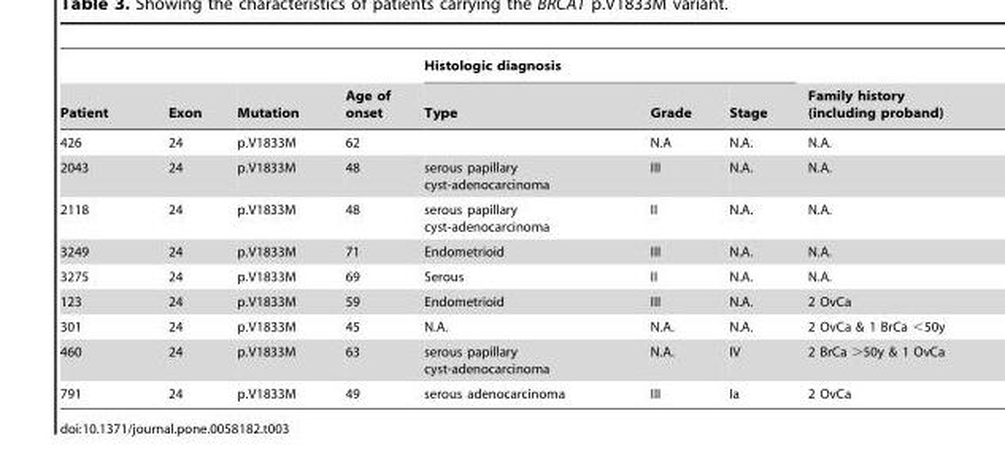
<table><thead><tr><td rowspan="2">Patient</td><td rowspan="2">Exon</td><td rowspan="2">Mutation</td><td rowspan="2">Age of onset</td><td colspan="3">Histologic diagnosis</td><td rowspan="2">Family history (including proband)</td></tr><tr><td>Type</td><td>Grade</td><td>Stage</td></tr></thead><tbody><tr><td>426</td><td>24</td><td>p.V1833M</td><td>62</td><td></td><td>N.A</td><td>N.A.</td><td>N.A.</td></tr><tr><td>2043</td><td>24</td><td>p.V1833M</td><td>48</td><td>serous papillary cyst-adenocarcinoma</td><td>III</td><td>N.A.</td><td>N.A.</td></tr><tr><td>2118</td><td>24</td><td>p.V1833M</td><td>48</td><td>serous papillary cyst-adenocarcinoma</td><td>II</td><td>N.A.</td><td>N.A.</td></tr><tr><td>3249</td><td>24</td><td>p.V1833M</td><td>71</td><td>Endometrioid</td><td>III</td><td>N.A.</td><td>N.A.</td></tr><tr><td>3275</td><td>24</td><td>p.V1833M</td><td>69</td><td>Serous</td><td>II</td><td>N.A.</td><td>N.A.</td></tr><tr><td>123</td><td>24</td><td>p.V1833M</td><td>59</td><td>Endometrioid</td><td>III</td><td>N.A.</td><td>2 OvCa</td></tr><tr><td>301</td><td>24</td><td>p.V1833M</td><td>45</td><td>N.A.</td><td>N.A.</td><td>N.A.</td><td>2 OvCa &amp; 1 BrCa &lt;50y</td></tr><tr><td>460</td><td>24</td><td>p.V1833M</td><td>63</td><td>serous papillary cyst-adenocarcinoma</td><td>N.A.</td><td>IV</td><td>2 BrCa &gt;50y &amp; 1 OvCa</td></tr><tr><td>791</td><td>24</td><td>p.V1833M</td><td>49</td><td>serous adenocarcinoma</td><td>III</td><td>Ia</td><td>2 OvCa</td></tr></tbody></table>